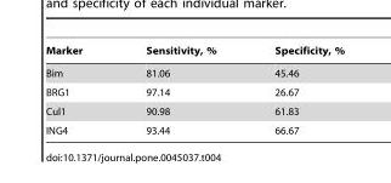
<table><thead><tr><td>Marker</td><td>Sensitivity, %</td><td>Specificity, %</td></tr></thead><tbody><tr><td>Bim</td><td>81.06</td><td>45.46</td></tr><tr><td>BRG1</td><td>97.14</td><td>26.67</td></tr><tr><td>Cul1</td><td>90.98</td><td>61.83</td></tr><tr><td>ING4</td><td>93.44</td><td>66.67</td></tr></tbody></table>